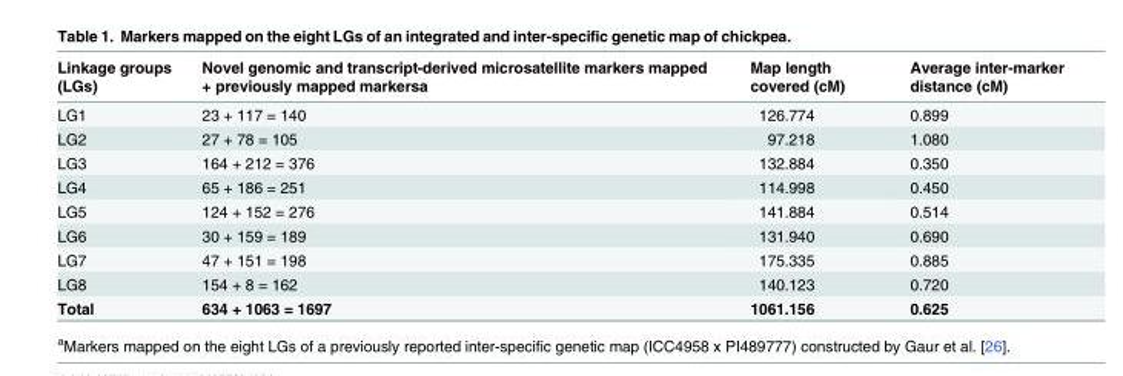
<table><thead><tr><td>Linkage groups (LGs)</td><td>Novel genomic and transcript-derived microsatellite markers mapped + previously mapped markers<sup>a</sup></td><td>Map length covered (cM)</td><td>Average inter-marker distance (cM)</td></tr></thead><tbody><tr><td>LG1</td><td>23 + 117 = 140</td><td>126.774</td><td>0.899</td></tr><tr><td>LG2</td><td>27 + 78 = 105</td><td>97.218</td><td>1.080</td></tr><tr><td>LG3</td><td>164 + 212 = 376</td><td>132.884</td><td>0.350</td></tr><tr><td>LG4</td><td>65 + 186 = 251</td><td>114.998</td><td>0.450</td></tr><tr><td>LG5</td><td>124 + 152 = 276</td><td>141.884</td><td>0.514</td></tr><tr><td>LG6</td><td>30 + 159 = 189</td><td>131.940</td><td>0.690</td></tr><tr><td>LG7</td><td>47 + 151 = 198</td><td>175.335</td><td>0.885</td></tr><tr><td>LG8</td><td>154 + 8 = 162</td><td>140.123</td><td>0.720</td></tr><tr><td>Total</td><td>634 + 1063 = 1697</td><td>1061.156</td><td>0.625</td></tr></tbody></table>